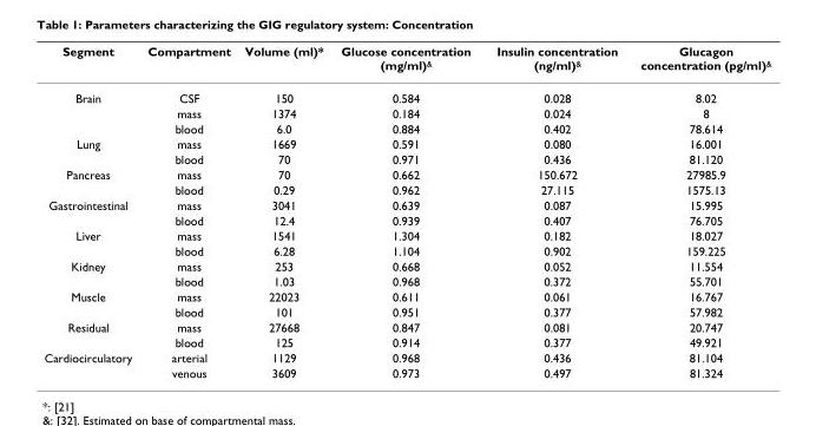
<table><thead><tr><td>Segment</td><td>Compartment</td><td>Volume (ml)*</td><td>Glucose concentration (mg/ml)<sup>&amp;</sup></td><td>Insulin concentration (ng/ml)<sup>&amp;</sup></td><td>Glucagon concentration (pg/ml)<sup>&amp;</sup></td></tr></thead><tbody><tr><td rowspan="3">Brain</td><td>CSF</td><td>150</td><td>0.584</td><td>0.028</td><td>8.02</td></tr><tr><td>mass</td><td>1374</td><td>0.184</td><td>0.024</td><td>8</td></tr><tr><td>blood</td><td>6.0</td><td>0.884</td><td>0.402</td><td>78.614</td></tr><tr><td rowspan="2">Lung</td><td>mass</td><td>1669</td><td>0.591</td><td>0.080</td><td>16.001</td></tr><tr><td>blood</td><td>70</td><td>0.971</td><td>0.436</td><td>81.120</td></tr><tr><td rowspan="2">Pancreas</td><td>mass</td><td>70</td><td>0.662</td><td>150.672</td><td>27985.9</td></tr><tr><td>blood</td><td>0.29</td><td>0.962</td><td>27.115</td><td>1575.13</td></tr><tr><td rowspan="2">Gastrointestinal</td><td>mass</td><td>3041</td><td>0.639</td><td>0.087</td><td>15.995</td></tr><tr><td>blood</td><td>12.4</td><td>0.939</td><td>0.407</td><td>76.705</td></tr><tr><td rowspan="2">Liver</td><td>mass</td><td>1541</td><td>1.304</td><td>0.182</td><td>18.027</td></tr><tr><td>blood</td><td>6.28</td><td>1.104</td><td>0.902</td><td>159.225</td></tr><tr><td rowspan="2">Kidney</td><td>mass</td><td>253</td><td>0.668</td><td>0.052</td><td>11.554</td></tr><tr><td>blood</td><td>1.03</td><td>0.968</td><td>0.372</td><td>55.701</td></tr><tr><td rowspan="2">Muscle</td><td>mass</td><td>22023</td><td>0.611</td><td>0.061</td><td>16.767</td></tr><tr><td>blood</td><td>101</td><td>0.951</td><td>0.377</td><td>57.982</td></tr><tr><td rowspan="2">Residual</td><td>mass</td><td>27668</td><td>0.847</td><td>0.081</td><td>20.747</td></tr><tr><td>blood</td><td>125</td><td>0.914</td><td>0.377</td><td>49.921</td></tr><tr><td rowspan="2">Cardiocirculatory</td><td>arterial</td><td>1129</td><td>0.968</td><td>0.436</td><td>81.104</td></tr><tr><td>venous</td><td>3609</td><td>0.973</td><td>0.497</td><td>81.324</td></tr></tbody></table>